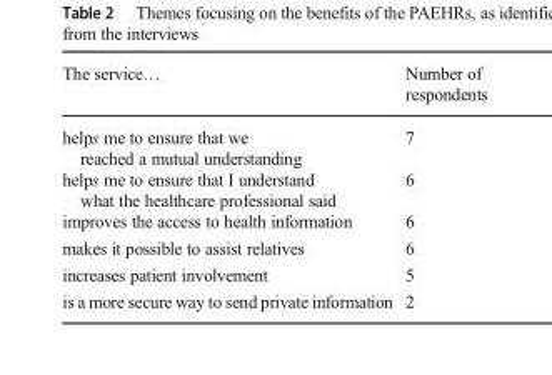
<table><thead><tr><td>The service…</td><td>Number of respondents</td></tr></thead><tbody><tr><td>helps me to ensure that we reached a mutual understanding</td><td>7</td></tr><tr><td>helps me to ensure that I understand what the healthcare professional said</td><td>6</td></tr><tr><td>improves the access to health information</td><td>6</td></tr><tr><td>makes it possible to assist relatives</td><td>6</td></tr><tr><td>increases patient involvement</td><td>5</td></tr><tr><td>is a more secure way to send private information</td><td>2</td></tr></tbody></table>